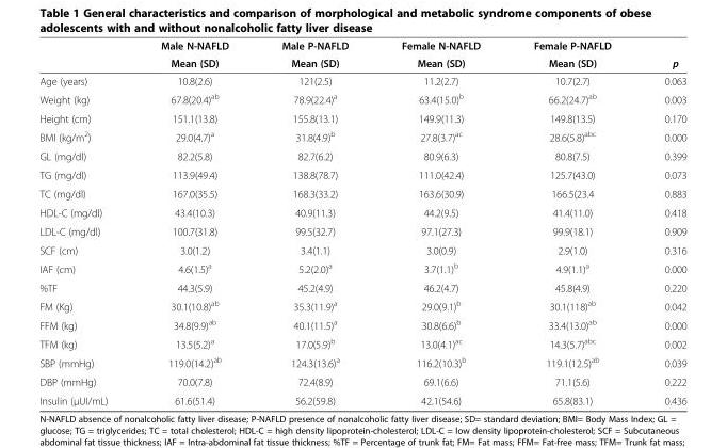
<table><thead><tr><td rowspan="2"></td><td rowspan="2">Male N-NAFLD Mean (SD)</td><td rowspan="2">Male P-NAFLD Mean (SD)</td><td rowspan="2">Female N-NAFLD Mean (SD)</td><td rowspan="2">Female P-NAFLD Mean (SD)</td><td rowspan="2">p</td></tr><tr></tr></thead><tbody><tr><td>Age (years)</td><td>10.8(2.6)</td><td>121(2.5)</td><td>11.2(2.7)</td><td>10.7(2.7)</td><td>0.063</td></tr><tr><td>Weight (kg)</td><td>67.8(20.4)<sup>ab</sup></td><td>78.9(22.4)<sup>a</sup></td><td>63.4(15.0)<sup>b</sup></td><td>66.2(24.7)<sup>ab</sup></td><td>0.003</td></tr><tr><td>Height (cm)</td><td>151.1(13.8)</td><td>155.8(13.1)</td><td>149.9(11.3)</td><td>149.8(13.5)</td><td>0.170</td></tr><tr><td>BMI (kg/m<sup>2</sup>)</td><td>29.0(4.7)<sup>a</sup></td><td>31.8(4.9)<sup>b</sup></td><td>27.8(3.7)<sup>ac</sup></td><td>28.6(5.8)<sup>abc</sup></td><td>0.000</td></tr><tr><td>GL (mg/dl)</td><td>82.2(5.8)</td><td>82.7(6.2)</td><td>80.9(6.3)</td><td>80.8(7.5)</td><td>0.399</td></tr><tr><td>TG (mg/dl)</td><td>113.9(49.4)</td><td>138.8(78.7)</td><td>111.0(42.4)</td><td>125.7(43.0)</td><td>0.073</td></tr><tr><td>TC (mg/dl)</td><td>167.0(35.5)</td><td>168.3(33.2)</td><td>163.6(30.9)</td><td>166.5(23.4</td><td>0.883</td></tr><tr><td>HDL-C (mg/dl)</td><td>43.4(10.3)</td><td>40.9(11.3)</td><td>44.2(9.5)</td><td>41.4(11.0)</td><td>0.418</td></tr><tr><td>LDL-C (mg/dl)</td><td>100.7(31.8)</td><td>99.5(32.7)</td><td>97.1(27.3)</td><td>99.9(18.1)</td><td>0.909</td></tr><tr><td>SCF (cm)</td><td>3.0(1.2)</td><td>3.4(1.1)</td><td>3.0(0.9)</td><td>2.9(1.0)</td><td>0.316</td></tr><tr><td>IAF (cm)</td><td>4.6(1.5)<sup>a</sup></td><td>5.2(2.0)<sup>a</sup></td><td>3.7(1.1)<sup>b</sup></td><td>4.9(1.1)<sup>a</sup></td><td>0.000</td></tr><tr><td>%TF</td><td>44.3(5.9)</td><td>45.2(4.9)</td><td>46.2(4.7)</td><td>45.8(4.9)</td><td>0.220</td></tr><tr><td>FM (Kg)</td><td>30.1(10.8)<sup>ab</sup></td><td>35.3(11.9)<sup>a</sup></td><td>29.0(9.1)<sup>b</sup></td><td>30.1(118)<sup>ab</sup></td><td>0.042</td></tr><tr><td>FFM (kg)</td><td>34.8(9.9)<sup>ab</sup></td><td>40.1(11.5)<sup>a</sup></td><td>30.8(6.6)<sup>b</sup></td><td>33.4(13.0)<sup>ab</sup></td><td>0.000</td></tr><tr><td>TFM (kg)</td><td>13.5(5.2)<sup>a</sup></td><td>17.0(5.9)<sup>b</sup></td><td>13.0(4.1)<sup>ac</sup></td><td>14.3(5.7)<sup>abc</sup></td><td>0.002</td></tr><tr><td>SBP (mmHg)</td><td>119.0(14.2)<sup>ab</sup></td><td>124.3(13.6)<sup>a</sup></td><td>116.2(10.3)<sup>b</sup></td><td>119.1(12.5)<sup>ab</sup></td><td>0.039</td></tr><tr><td>DBP (mmHg)</td><td>70.0(7.8)</td><td>72.4(8.9)</td><td>69.1(6.6)</td><td>71.1(5.6)</td><td>0.222</td></tr><tr><td>Insulin (μUI/mL)</td><td>61.6(51.4)</td><td>56.2(59.8)</td><td>42.1(54.6)</td><td>65.8(83.1)</td><td>0.436</td></tr></tbody></table>